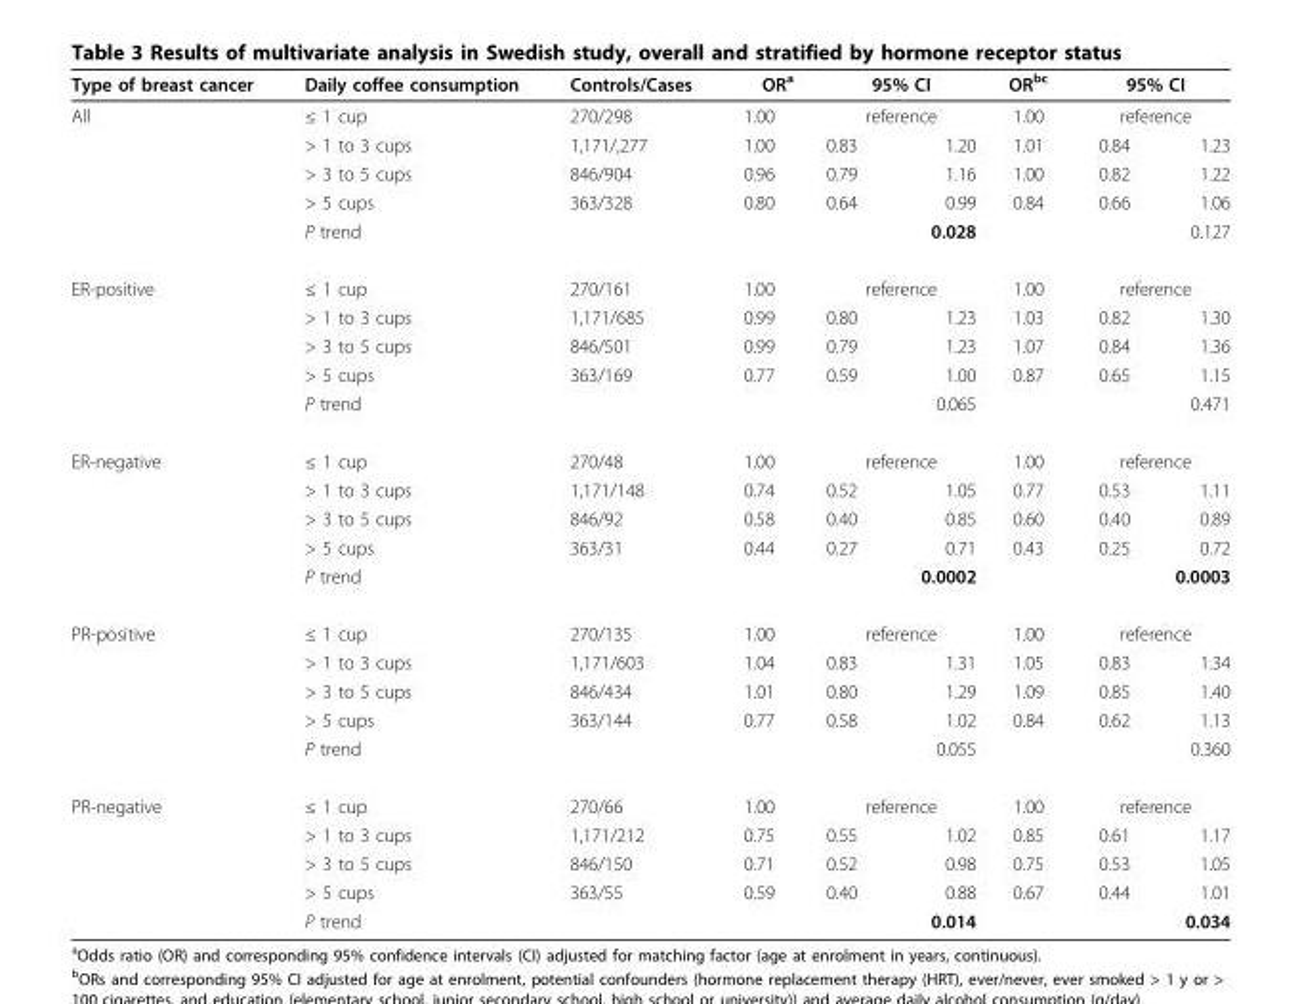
<table><thead><tr><td rowspan="3">Type of breast cancer All</td><td rowspan="3">Daily coffee consumption ≤ 1 cup &gt; 1 to 3 cups</td><td rowspan="3">Controls/Cases 270/298 1,171/,277</td><td rowspan="3">OR<sup>a</sup> 1.00 1.00</td><td rowspan="2" colspan="2">95% CI reference</td><td rowspan="3">OR<sup>bc</sup> 1.00 1.01</td><td rowspan="2" colspan="2">95% CI reference</td></tr><tr></tr><tr><td>0.83</td><td>1.20</td><td>0.84</td><td>1.23</td></tr></thead><tbody><tr><td></td><td>&gt; 3 to 5 cups</td><td>846/904</td><td>0.96</td><td>0.79</td><td>1.16</td><td>1.00</td><td>0.82</td><td>1.22</td></tr><tr><td></td><td>&gt; 5 cups</td><td>363/328</td><td>0.80</td><td>0.64</td><td>0.99</td><td>0.84</td><td>0.66</td><td>1.06</td></tr><tr><td></td><td>P trend</td><td></td><td colspan="3">0.028</td><td colspan="3">0.127</td></tr><tr><td rowspan="5">ER-positive</td><td>≤ 1 cup</td><td>270/161</td><td>1.00</td><td colspan="2">reference</td><td>1.00</td><td colspan="2">reference</td></tr><tr><td>&gt; 1 to 3 cups</td><td>1,171/685</td><td>0.99</td><td>0.80</td><td>1.23</td><td>1.03</td><td>0.82</td><td>1.30</td></tr><tr><td>&gt; 3 to 5 cups</td><td>846/501</td><td>0.99</td><td>0.79</td><td>1.23</td><td>1.07</td><td>0.84</td><td>1.36</td></tr><tr><td>&gt; 5 cups</td><td>363/169</td><td>0.77</td><td>0.59</td><td>1.00</td><td>0.87</td><td>0.65</td><td>1.15</td></tr><tr><td>P trend</td><td></td><td colspan="3">0.065</td><td colspan="3">0.471</td></tr><tr><td rowspan="5">ER-negative</td><td>≤ 1 cup</td><td>270/48</td><td>1.00</td><td colspan="2">reference</td><td>1.00</td><td colspan="2">reference</td></tr><tr><td>&gt; 1 to 3 cups</td><td>1,171/148</td><td>0.74</td><td>0.52</td><td>1.05</td><td>0.77</td><td>0.53</td><td>1.11</td></tr><tr><td>&gt; 3 to 5 cups</td><td>846/92</td><td>0.58</td><td>0.40</td><td>0.85</td><td>0.60</td><td>0.40</td><td>0.89</td></tr><tr><td>&gt; 5 cups</td><td>363/31</td><td>0.44</td><td>0.27</td><td>0.71</td><td>0.43</td><td>0.25</td><td>0.72</td></tr><tr><td>P trend</td><td></td><td colspan="3">0.0002</td><td colspan="3">0.0003</td></tr><tr><td rowspan="5">PR-positive</td><td>≤ 1 cup</td><td>270/135</td><td>1.00</td><td colspan="2">reference</td><td>1.00</td><td colspan="2">reference</td></tr><tr><td>&gt; 1 to 3 cups</td><td>1,171/603</td><td>1.04</td><td>0.83</td><td>1.31</td><td>1.05</td><td>0.83</td><td>1.34</td></tr><tr><td>&gt; 3 to 5 cups</td><td>846/434</td><td>1.01</td><td>0.80</td><td>1.29</td><td>1.09</td><td>0.85</td><td>1.40</td></tr><tr><td>&gt; 5 cups</td><td>363/144</td><td>0.77</td><td>0.58</td><td>1.02</td><td>0.84</td><td>0.62</td><td>1.13</td></tr><tr><td>P trend</td><td></td><td colspan="3">0.055</td><td colspan="3">0.360</td></tr><tr><td rowspan="5">PR-negative</td><td>≤ 1 cup</td><td>270/66</td><td>1.00</td><td colspan="2">reference</td><td>1.00</td><td colspan="2">reference</td></tr><tr><td>&gt; 1 to 3 cups</td><td>1,171/212</td><td>0.75</td><td>0.55</td><td>1.02</td><td>0.85</td><td>0.61</td><td>1.17</td></tr><tr><td>&gt; 3 to 5 cups</td><td>846/150</td><td>0.71</td><td>0.52</td><td>0.98</td><td>0.75</td><td>0.53</td><td>1.05</td></tr><tr><td>&gt; 5 cups</td><td>363/55</td><td>0.59</td><td>0.40</td><td>0.88</td><td>0.67</td><td>0.44</td><td>1.01</td></tr><tr><td>P trend</td><td></td><td colspan="3">0.014</td><td colspan="3">0.034</td></tr></tbody></table>